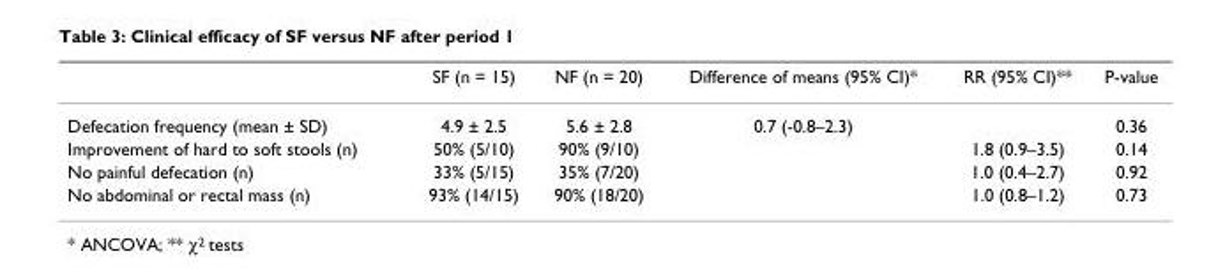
<table><thead><tr><td></td><td>SF (n = 15)</td><td>NF (n = 20)</td><td>Difference of means (95% CI)*</td><td>RR (95% CI)**</td><td>P-value</td></tr></thead><tbody><tr><td>Defecation frequency (mean ± SD)</td><td>4.9 ± 2.5</td><td>5.6 ± 2.8</td><td>0.7 (-0.8–2.3)</td><td></td><td>0.36</td></tr><tr><td>Improvement of hard to soft stools (n)</td><td>50% (5/10)</td><td>90% (9/10)</td><td></td><td>1.8 (0.9–3.5)</td><td>0.14</td></tr><tr><td>No painful defecation (n)</td><td>33% (5/15)</td><td>35% (7/20)</td><td></td><td>1.0 (0.4–2.7)</td><td>0.92</td></tr><tr><td>No abdominal or rectal mass (n)</td><td>93% (14/15)</td><td>90% (18/20)</td><td></td><td>1.0 (0.8–1.2)</td><td>0.73</td></tr></tbody></table>